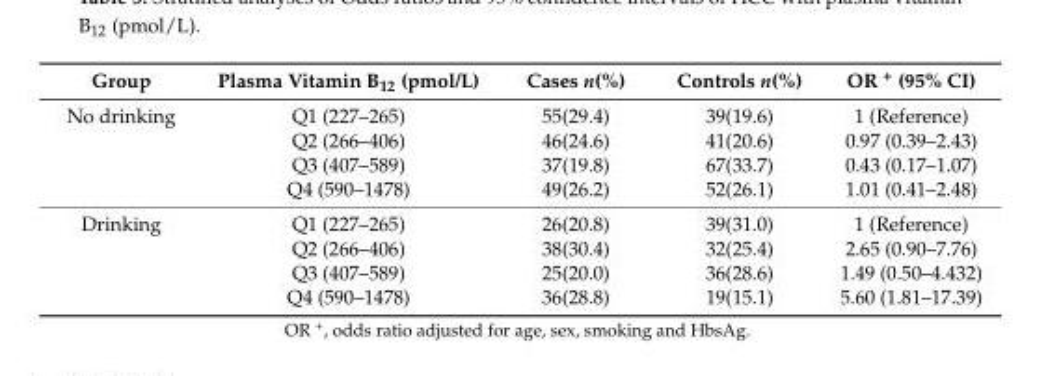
<table><thead><tr><td>Group</td><td>Plasma Vitamin B<sub>12</sub> (pmol/L)</td><td>Cases n(%)</td><td>Controls n(%)</td><td>OR <sup>+</sup> (95% CI)</td></tr></thead><tbody><tr><td rowspan="4">No drinking</td><td>Q1 (227–265)</td><td>55(29.4)</td><td>39(19.6)</td><td>1 (Reference)</td></tr><tr><td>Q2 (266–406)</td><td>46(24.6)</td><td>41(20.6)</td><td>0.97 (0.39–2.43)</td></tr><tr><td>Q3 (407–589)</td><td>37(19.8)</td><td>67(33.7)</td><td>0.43 (0.17–1.07)</td></tr><tr><td>Q4 (590–1478)</td><td>49(26.2)</td><td>52(26.1)</td><td>1.01 (0.41–2.48)</td></tr><tr><td rowspan="4">Drinking</td><td>Q1 (227–265)</td><td>26(20.8)</td><td>39(31.0)</td><td>1 (Reference)</td></tr><tr><td>Q2 (266–406)</td><td>38(30.4)</td><td>32(25.4)</td><td>2.65 (0.90–7.76)</td></tr><tr><td>Q3 (407–589)</td><td>25(20.0)</td><td>36(28.6)</td><td>1.49 (0.50–4.432)</td></tr><tr><td>Q4 (590–1478)</td><td>36(28.8)</td><td>19(15.1)</td><td>5.60 (1.81–17.39)</td></tr></tbody></table>